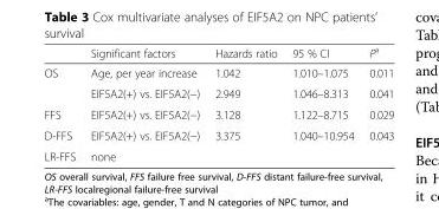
<table><thead><tr><td></td><td>Significant factors</td><td>Hazards ratio</td><td>95 % CI</td><td>P<sup>a</sup></td></tr></thead><tbody><tr><td rowspan="2">OS</td><td>Age, per year increase</td><td>1.042</td><td>1.010–1.075</td><td>0.011</td></tr><tr><td>EIF5A2(+) vs. EIF5A2(−)</td><td>2.949</td><td>1.046–8.313</td><td>0.041</td></tr><tr><td>FFS</td><td>EIF5A2(+) vs. EIF5A2(−)</td><td>3.128</td><td>1.122–8.715</td><td>0.029</td></tr><tr><td>D-FFS</td><td>EIF5A2(+) vs. EIF5A2(−)</td><td>3.375</td><td>1.040–10.954</td><td>0.043</td></tr><tr><td>LR-FFS</td><td>none</td><td></td><td></td><td></td></tr></tbody></table>